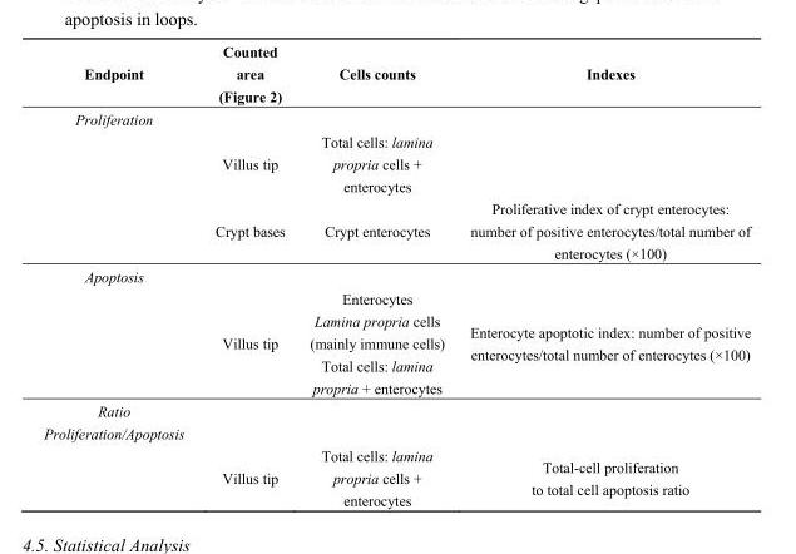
<table><thead><tr><td>Endpoint</td><td>Counted area (Figure 2)</td><td>Cells counts</td><td>Indexes</td></tr></thead><tbody><tr><td colspan="4">Proliferation</td></tr><tr><td></td><td>Villus tip</td><td>Total cells: lamina propria cells + enterocytes</td><td></td></tr><tr><td></td><td>Crypt bases</td><td>Crypt enterocytes</td><td>Proliferative index of crypt enterocytes: number of positive enterocytes/total number of enterocytes (×100)</td></tr><tr><td colspan="4">Apoptosis</td></tr><tr><td></td><td>Villus tip</td><td>Enterocytes Lamina propria cells (mainly immune cells) Total cells: lamina propria + enterocytes</td><td>Enterocyte apoptotic index: number of positive enterocytes/total number of enterocytes (×100)</td></tr><tr><td colspan="4">Ratio Proliferation/Apoptosis</td></tr><tr><td></td><td>Villus tip</td><td>Total cells: lamina propria cells + enterocytes</td><td>Total-cell proliferation to total cell apoptosis ratio</td></tr></tbody></table>